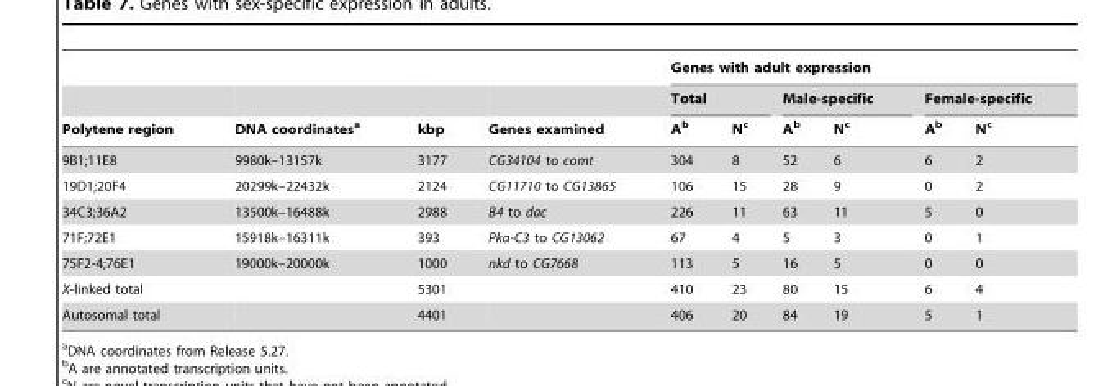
<table><thead><tr><td rowspan="3">Polytene region</td><td rowspan="3">DNA coordinates<sup>a</sup></td><td rowspan="3">kbp</td><td rowspan="3">Genes examined</td><td colspan="6">Genes with adult expression</td></tr><tr><td colspan="2">Total</td><td colspan="2">Male-specific</td><td colspan="2">Female-specific</td></tr><tr><td>A<sup>b</sup></td><td>N<sup>c</sup></td><td>A<sup>b</sup></td><td>N<sup>c</sup></td><td>A<sup>b</sup></td><td>N<sup>c</sup></td></tr></thead><tbody><tr><td>9B1;11E8</td><td>9980k–13157k</td><td>3177</td><td>CG34104 to comt</td><td>304</td><td>8</td><td>52</td><td>6</td><td>6</td><td>2</td></tr><tr><td>19D1;20F4</td><td>20299k–22432k</td><td>2124</td><td>CG11710 to CG13865</td><td>106</td><td>15</td><td>28</td><td>9</td><td>0</td><td>2</td></tr><tr><td>34C3;36A2</td><td>13500k–16488k</td><td>2988</td><td>B4 to dac</td><td>226</td><td>11</td><td>63</td><td>11</td><td>5</td><td>0</td></tr><tr><td>71F;72E1</td><td>15918k–16311k</td><td>393</td><td>Pka-C3 to CG13062</td><td>67</td><td>4</td><td>5</td><td>3</td><td>0</td><td>1</td></tr><tr><td>75F2-4;76E1</td><td>19000k–20000k</td><td>1000</td><td>nkd to CG7668</td><td>113</td><td>5</td><td>16</td><td>5</td><td>0</td><td>0</td></tr><tr><td>X-linked total</td><td></td><td>5301</td><td></td><td>410</td><td>23</td><td>80</td><td>15</td><td>6</td><td>4</td></tr><tr><td>Autosomal total</td><td></td><td>4401</td><td></td><td>406</td><td>20</td><td>84</td><td>19</td><td>5</td><td>1</td></tr></tbody></table>